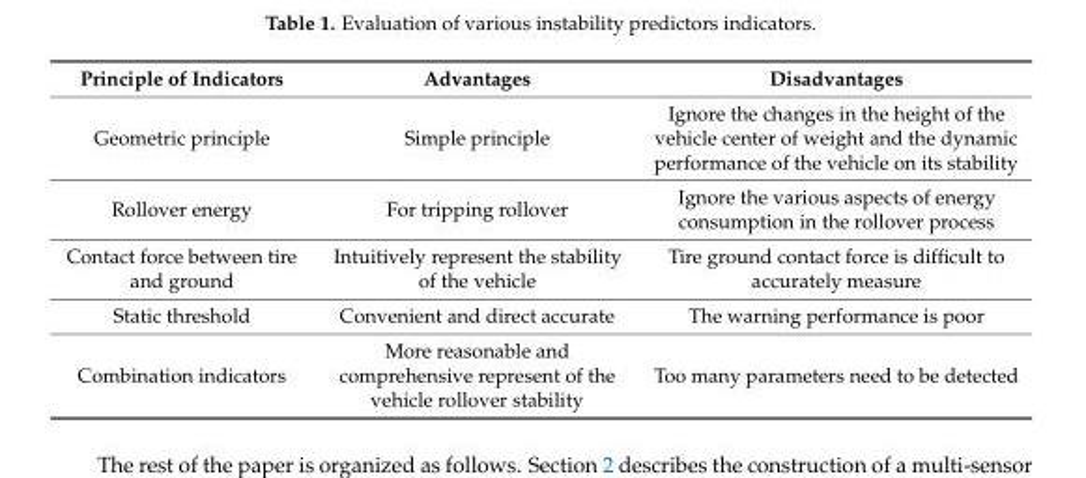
<table><thead><tr><td>Principle of Indicators</td><td>Advantages</td><td>Disadvantages</td></tr></thead><tbody><tr><td>Geometric principle</td><td>Simple principle</td><td>Ignore the changes in the height of the vehicle center of weight and the dynamic performance of the vehicle on its stability</td></tr><tr><td>Rollover energy</td><td>For tripping rollover</td><td>Ignore the various aspects of energy consumption in the rollover process</td></tr><tr><td>Contact force between tire and ground</td><td>Intuitively represent the stability of the vehicle</td><td>Tire ground contact force is difficult to accurately measure</td></tr><tr><td>Static threshold</td><td>Convenient and direct accurate</td><td>The warning performance is poor</td></tr><tr><td>Combination indicators</td><td>More reasonable and comprehensive represent of the vehicle rollover stability</td><td>Too many parameters need to be detected</td></tr></tbody></table>